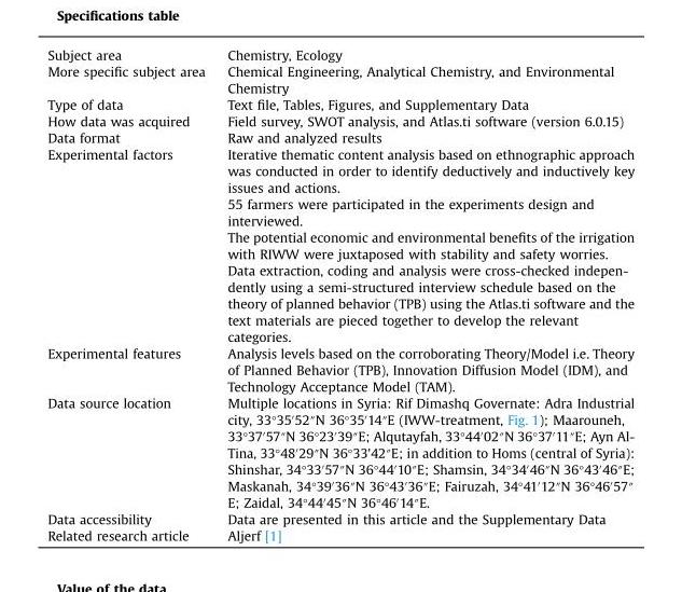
<table><tbody><tr><td>Subject area</td><td>Chemistry, Ecology</td></tr><tr><td>More specific subject area</td><td>Chemical Engineering, Analytical Chemistry, and Environmental Chemistry</td></tr><tr><td>Type of data</td><td>Text file, Tables, Figures, and Supplementary Data</td></tr><tr><td>How data was acquired</td><td>Field survey, SWOT analysis, and Atlas.ti software (version 6.0.15)</td></tr><tr><td>Data format</td><td>Raw and analyzed results</td></tr><tr><td rowspan="4">Experimental factors</td><td>Iterative thematic content analysis based on ethnographic approach was conducted in order to identify deductively and inductively key issues and actions.</td></tr><tr><td>55 farmers were participated in the experiments design and interviewed.</td></tr><tr><td>The potential economic and environmental benefits of the irrigation with RIWW were juxtaposed with stability and safety worries.</td></tr><tr><td>Data extraction, coding and analysis were cross-checked indepen- dently using a semi-structured interview schedule based on the theory of planned behavior (TPB) using the Atlas.ti software and the text materials are pieced together to develop the relevant categories.</td></tr><tr><td>Experimental features</td><td>Analysis levels based on the corroborating Theory/Model i.e. Theory of Planned Behavior (TPB), Innovation Diffusion Model (IDM), and Technology Acceptance Model (TAM).</td></tr><tr><td>Data source location</td><td>Multiple locations in Syria: Rif Dimashq Governate: Adra Industrial city, 33°35′52″N 36°35′14″E (IWW-treatment, Fig. 1); Maarouneh, 33°37′57″N 36°23′39″E; Alqutayfah, 33°44′02″N 36°37′11″E; Ayn Al- Tina, 33°48′29″N 36°33&#x27;42″E; in addition to Homs (central of Syria): Shinshar, 34°33′57″N 36°44′10″E; Shamsin, 34°34′46″N 36°43′46″E; Maskanah, 34°39′36″N 36°43′36″E; Fairuzah, 34°41′12″N 36°46′57″ E; Zaidal, 34°44′45″N 36°46′14″E.</td></tr><tr><td>Data accessibility</td><td>Data are presented in this article and the Supplementary Data</td></tr><tr><td>Related research article</td><td>Aljerf [1]</td></tr></tbody></table>